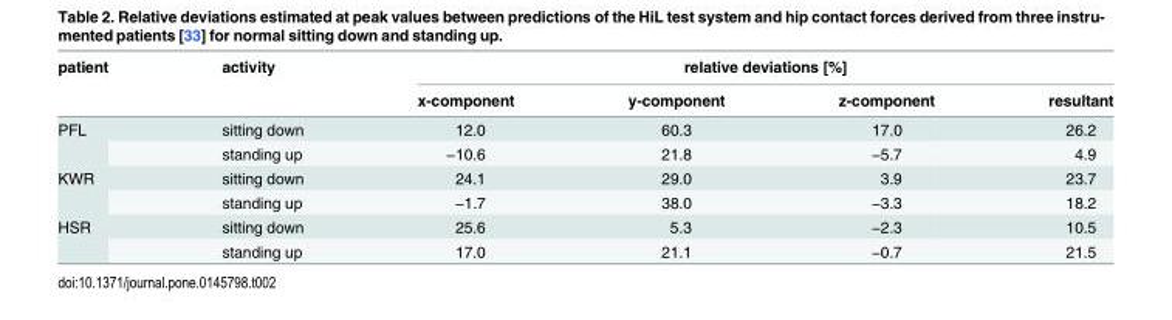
<table><thead><tr><td rowspan="2">patient</td><td rowspan="2">activity</td><td colspan="4">relative deviations [%]</td></tr><tr><td>x-component</td><td>y-component</td><td>z-component</td><td>resultant</td></tr></thead><tbody><tr><td rowspan="2">PFL</td><td>sitting down</td><td>12.0</td><td>60.3</td><td>17.0</td><td>26.2</td></tr><tr><td>standing up</td><td>−10.6</td><td>21.8</td><td>−5.7</td><td>4.9</td></tr><tr><td rowspan="2">KWR</td><td>sitting down</td><td>24.1</td><td>29.0</td><td>3.9</td><td>23.7</td></tr><tr><td>standing up</td><td>−1.7</td><td>38.0</td><td>−3.3</td><td>18.2</td></tr><tr><td rowspan="2">HSR</td><td>sitting down</td><td>25.6</td><td>5.3</td><td>−2.3</td><td>10.5</td></tr><tr><td>standing up</td><td>17.0</td><td>21.1</td><td>−0.7</td><td>21.5</td></tr></tbody></table>